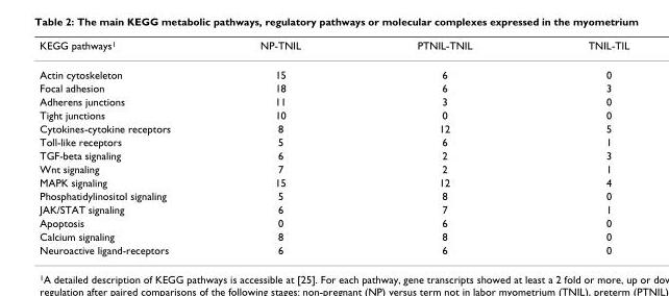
<table><thead><tr><td>KEGG pathways1</td><td>NP-TNIL</td><td>PTNIL-TNIL</td><td>TNIL-TIL</td></tr></thead><tbody><tr><td>Actin cytoskeleton</td><td>15</td><td>6</td><td>0</td></tr><tr><td>Focal adhesion</td><td>18</td><td>6</td><td>3</td></tr><tr><td>Adherens junctions</td><td>11</td><td>3</td><td>0</td></tr><tr><td>Tight junctions</td><td>10</td><td>0</td><td>0</td></tr><tr><td>Cytokines-cytokine receptors</td><td>8</td><td>12</td><td>5</td></tr><tr><td>Toll-like receptors</td><td>5</td><td>6</td><td>1</td></tr><tr><td>TGF-beta signaling</td><td>6</td><td>2</td><td>3</td></tr><tr><td>Wnt signaling</td><td>7</td><td>2</td><td>1</td></tr><tr><td>MAPK signaling</td><td>15</td><td>12</td><td>4</td></tr><tr><td>Phosphatidylinositol signaling</td><td>5</td><td>8</td><td>0</td></tr><tr><td>JAK/STAT signaling</td><td>6</td><td>7</td><td>1</td></tr><tr><td>Apoptosis</td><td>0</td><td>6</td><td>0</td></tr><tr><td>Calcium signaling</td><td>8</td><td>8</td><td>0</td></tr><tr><td>Neuroactive ligand-receptors</td><td>6</td><td>6</td><td>0</td></tr></tbody></table>